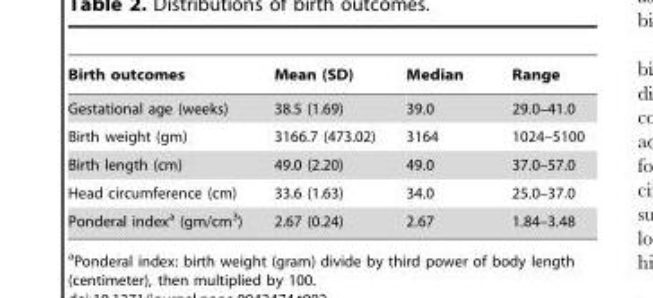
<table><thead><tr><td>Birth outcomes</td><td>Mean (SD)</td><td>Median</td><td>Range</td></tr></thead><tbody><tr><td>Gestational age (weeks)</td><td>38.5 (1.69)</td><td>39.0</td><td>29.0–41.0</td></tr><tr><td>Birth weight (gm)</td><td>3166.7 (473.02)</td><td>3164</td><td>1024–5100</td></tr><tr><td>Birth length (cm)</td><td>49.0 (2.20)</td><td>49.0</td><td>37.0–57.0</td></tr><tr><td>Head circumference (cm)</td><td>33.6 (1.63)</td><td>34.0</td><td>25.0–37.0</td></tr><tr><td>Ponderal index<sup>a</sup> (gm/cm<sup>3</sup>)</td><td>2.67 (0.24)</td><td>2.67</td><td>1.84–3.48</td></tr></tbody></table>